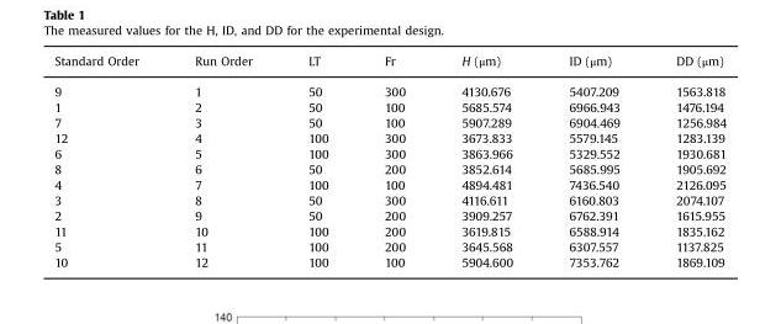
<table><thead><tr><td>Standard Order</td><td>Run Order</td><td>LT</td><td>Fr</td><td>H (μm)</td><td>ID (μm)</td><td>DD (μm)</td></tr></thead><tbody><tr><td>9</td><td>1</td><td>50</td><td>300</td><td>4130.676</td><td>5407.209</td><td>1563.818</td></tr><tr><td>1</td><td>2</td><td>50</td><td>100</td><td>5685.574</td><td>6966.943</td><td>1476.194</td></tr><tr><td>7</td><td>3</td><td>50</td><td>100</td><td>5907.289</td><td>6904.469</td><td>1256.984</td></tr><tr><td>12</td><td>4</td><td>100</td><td>300</td><td>3673.833</td><td>5579.145</td><td>1283.139</td></tr><tr><td>6</td><td>5</td><td>100</td><td>300</td><td>3863.966</td><td>5329.552</td><td>1930.681</td></tr><tr><td>8</td><td>6</td><td>50</td><td>200</td><td>3852.614</td><td>5685.995</td><td>1905.692</td></tr><tr><td>4</td><td>7</td><td>100</td><td>100</td><td>4894.481</td><td>7436.540</td><td>2126.095</td></tr><tr><td>3</td><td>8</td><td>50</td><td>300</td><td>4116.611</td><td>6160.803</td><td>2074.107</td></tr><tr><td>2</td><td>9</td><td>50</td><td>200</td><td>3909.257</td><td>6762.391</td><td>1615.955</td></tr><tr><td>11</td><td>10</td><td>100</td><td>200</td><td>3619.815</td><td>6588.914</td><td>1835.162</td></tr><tr><td>5</td><td>11</td><td>100</td><td>200</td><td>3645.568</td><td>6307.557</td><td>1137.825</td></tr><tr><td>10</td><td>12</td><td>100</td><td>100</td><td>5904.600</td><td>7353.762</td><td>1869.109</td></tr></tbody></table>